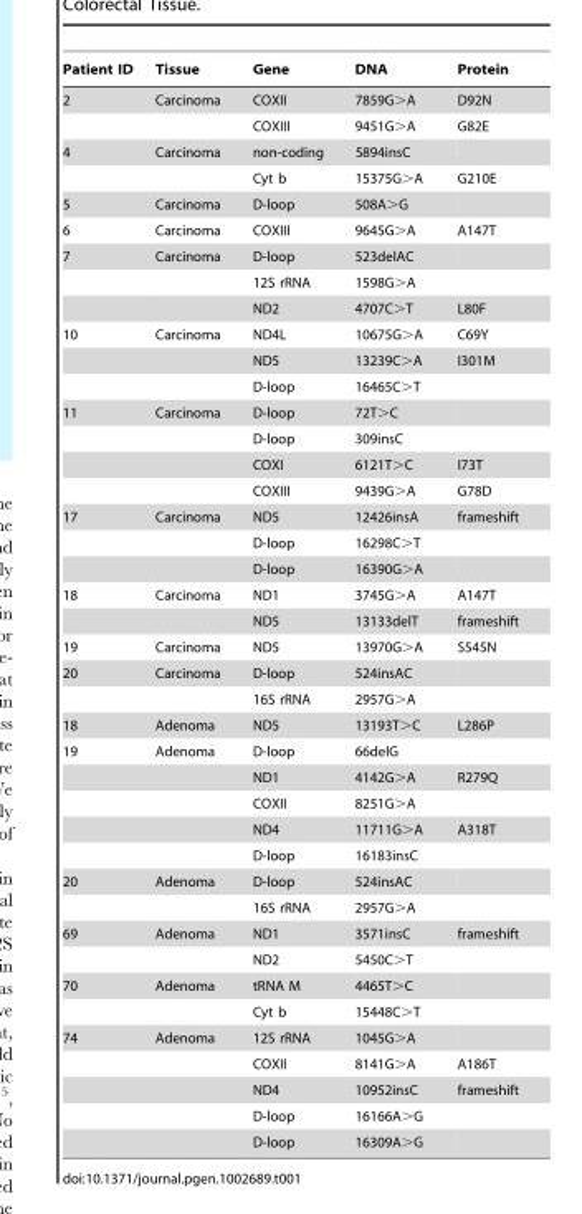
<table><thead><tr><td>Patient ID</td><td>Tissue</td><td>Gene</td><td>DNA</td><td>Protein</td></tr></thead><tbody><tr><td rowspan="2">2</td><td>Carcinoma</td><td>COXII</td><td>7859G&gt;A</td><td>D92N</td></tr><tr><td></td><td>COXIII</td><td>9451G&gt;A</td><td>G82E</td></tr><tr><td rowspan="2">4</td><td>Carcinoma</td><td>non-coding</td><td>5894insC</td><td></td></tr><tr><td></td><td>Cyt b</td><td>15375G&gt;A</td><td>G210E</td></tr><tr><td>5</td><td>Carcinoma</td><td>D-loop</td><td>508A&gt;G</td><td></td></tr><tr><td>6</td><td>Carcinoma</td><td>COXIII</td><td>9645G&gt;A</td><td>A147T</td></tr><tr><td rowspan="3">7</td><td>Carcinoma</td><td>D-loop</td><td>523delAC</td><td></td></tr><tr><td></td><td>12S rRNA</td><td>1598G&gt;A</td><td></td></tr><tr><td></td><td>ND2</td><td>4707C&gt;T</td><td>L80F</td></tr><tr><td rowspan="3">10</td><td>Carcinoma</td><td>ND4L</td><td>10675G&gt;A</td><td>C69Y</td></tr><tr><td></td><td>ND5</td><td>13239C&gt;A</td><td>I301M</td></tr><tr><td></td><td>D-loop</td><td>16465C&gt;T</td><td></td></tr><tr><td rowspan="4">11</td><td>Carcinoma</td><td>D-loop</td><td>72T&gt;C</td><td></td></tr><tr><td></td><td>D-loop</td><td>309insC</td><td></td></tr><tr><td></td><td>COXI</td><td>6121T&gt;C</td><td>I73T</td></tr><tr><td></td><td>COXIII</td><td>9439G&gt;A</td><td>G78D</td></tr><tr><td rowspan="3">17</td><td>Carcinoma</td><td>ND5</td><td>12426insA</td><td>frameshift</td></tr><tr><td></td><td>D-loop</td><td>16298C&gt;T</td><td></td></tr><tr><td></td><td>D-loop</td><td>16390G&gt;A</td><td></td></tr><tr><td rowspan="2">18</td><td>Carcinoma</td><td>ND1</td><td>3745G&gt;A</td><td>A147T</td></tr><tr><td></td><td>ND5</td><td>13133delT</td><td>frameshift</td></tr><tr><td>19</td><td>Carcinoma</td><td>ND5</td><td>13970G&gt;A</td><td>S545N</td></tr><tr><td rowspan="2">20</td><td>Carcinoma</td><td>D-loop</td><td>524insAC</td><td></td></tr><tr><td></td><td>16S rRNA</td><td>2957G&gt;A</td><td></td></tr><tr><td>18</td><td>Adenoma</td><td>ND5</td><td>13193T&gt;C</td><td>L286P</td></tr><tr><td rowspan="5">19</td><td>Adenoma</td><td>D-loop</td><td>66delG</td><td></td></tr><tr><td></td><td>ND1</td><td>4142G&gt;A</td><td>R279Q</td></tr><tr><td></td><td>COXII</td><td>8251G&gt;A</td><td></td></tr><tr><td></td><td>ND4</td><td>11711G&gt;A</td><td>A318T</td></tr><tr><td></td><td>D-loop</td><td>16183insC</td><td></td></tr><tr><td rowspan="2">20</td><td>Adenoma</td><td>D-loop</td><td>524insAC</td><td></td></tr><tr><td></td><td>16S rRNA</td><td>2957G&gt;A</td><td></td></tr><tr><td rowspan="2">69</td><td>Adenoma</td><td>ND1</td><td>3571insC</td><td>frameshift</td></tr><tr><td></td><td>ND2</td><td>5450C&gt;T</td><td></td></tr><tr><td rowspan="2">70</td><td>Adenoma</td><td>tRNA M</td><td>4465T&gt;C</td><td></td></tr><tr><td></td><td>Cyt b</td><td>15448C&gt;T</td><td></td></tr><tr><td rowspan="5">74</td><td>Adenoma</td><td>12S rRNA</td><td>1045G&gt;A</td><td></td></tr><tr><td></td><td>COXII</td><td>8141G&gt;A</td><td>A186T</td></tr><tr><td></td><td>ND4</td><td>10952insC</td><td>frameshift</td></tr><tr><td></td><td>D-loop</td><td>16166A&gt;G</td><td></td></tr><tr><td></td><td>D-loop</td><td>16309A&gt;G</td><td></td></tr></tbody></table>